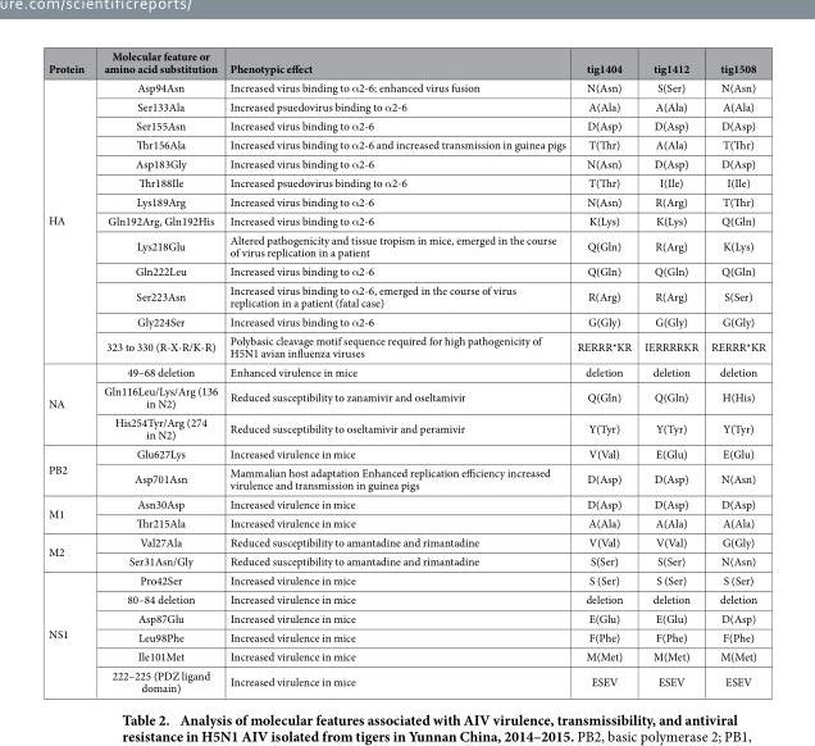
<table><thead><tr><td>Protein</td><td>Molecular feature or amino acid substitution</td><td>Phenotypic effect</td><td>tig1404</td><td>tig1412</td><td>tig1508</td></tr></thead><tbody><tr><td rowspan="13">HA</td><td>Asp94Asn</td><td>Increased virus binding to α 2-6; enhanced virus fusion</td><td>N(Asn)</td><td>S(Ser)</td><td>N(Asn)</td></tr><tr><td>Ser133Ala</td><td>Increased psuedovirus binding to α 2-6</td><td>A(Ala)</td><td>A(Ala)</td><td>A(Ala)</td></tr><tr><td>Ser155Asn</td><td>Increased virus binding to α 2-6</td><td>D(Asp)</td><td>D(Asp)</td><td>D(Asp)</td></tr><tr><td>Thr156Ala</td><td>Increased virus binding to α 2-6 and increased transmission in guinea pigs</td><td>T(Thr)</td><td>A(Ala)</td><td>T(Thr)</td></tr><tr><td>Asp183Gly</td><td>Increased virus binding to α 2-6</td><td>N(Asn)</td><td>D(Asp)</td><td>D(Asp)</td></tr><tr><td>Thr188Ile</td><td>Increased psuedovirus binding to α 2-6</td><td>T(Thr)</td><td>I(Ile)</td><td>I(Ile)</td></tr><tr><td>Lys189Arg</td><td>Increased virus binding to α 2-6</td><td>N(Asn)</td><td>R(Arg)</td><td>T(Thr)</td></tr><tr><td>Gln192Arg, Gln192His</td><td>Increased virus binding to α 2-6</td><td>K(Lys)</td><td>K(Lys)</td><td>Q(Gln)</td></tr><tr><td>Lys218Glu</td><td>Altered pathogenicity and tissue tropism in mice, emerged in the course of virus replication in a patient</td><td>Q(Gln)</td><td>R(Arg)</td><td>K(Lys)</td></tr><tr><td>Gln222Leu</td><td>Increased virus binding to α 2-6</td><td>Q(Gln)</td><td>Q(Gln)</td><td>Q(Gln)</td></tr><tr><td>Ser223Asn</td><td>Increased virus binding to α 2-6, emerged in the course of virus replication in a patient (fatal case)</td><td>R(Arg)</td><td>R(Arg)</td><td>S(Ser)</td></tr><tr><td>Gly224Ser</td><td>Increased virus binding to α 2-6</td><td>G(Gly)</td><td>G(Gly)</td><td>G(Gly)</td></tr><tr><td>323 to 330 (R-X-R/K-R)</td><td>Polybasic cleavage motif sequence required for high pathogenicity of H5N1 avian influenza viruses</td><td>RERRR*KR</td><td>IERRRRKR</td><td>RERRR*KR</td></tr><tr><td rowspan="3">NA</td><td>49–68 deletion</td><td>Enhanced virulence in mice</td><td>deletion</td><td>deletion</td><td>deletion</td></tr><tr><td>Gln116Leu/Lys/Arg (136 in N2)</td><td>Reduced susceptibility to zanamivir and oseltamivir</td><td>Q(Gln)</td><td>Q(Gln)</td><td>H(His)</td></tr><tr><td>His254Tyr/Arg (274 in N2)</td><td>Reduced susceptibility to oseltamivir and peramivir</td><td>Y(Tyr)</td><td>Y(Tyr)</td><td>Y(Tyr)</td></tr><tr><td rowspan="2">PB2</td><td>Glu627Lys</td><td>Increased virulence in mice</td><td>V(Val)</td><td>E(Glu)</td><td>E(Glu)</td></tr><tr><td>Asp701Asn</td><td>Mammalian host adaptation Enhanced replication efficiency increased virulence and transmission in guinea pigs</td><td>D(Asp)</td><td>D(Asp)</td><td>N(Asn)</td></tr><tr><td rowspan="2">M1</td><td>Asn30Asp</td><td>Increased virulence in mice</td><td>D(Asp)</td><td>D(Asp)</td><td>D(Asp)</td></tr><tr><td>Thr215Ala</td><td>Increased virulence in mice</td><td>A(Ala)</td><td>A(Ala)</td><td>A(Ala)</td></tr><tr><td rowspan="2">M2</td><td>Val27Ala</td><td>Reduced susceptibility to amantadine and rimantadine</td><td>V(Val)</td><td>V(Val)</td><td>G(Gly)</td></tr><tr><td>Ser31Asn/Gly</td><td>Reduced susceptibility to amantadine and rimantadine</td><td>S(Ser)</td><td>S(Ser)</td><td>N(Asn)</td></tr><tr><td rowspan="6">NS1</td><td>Pro42Ser</td><td>Increased virulence in mice</td><td>S (Ser)</td><td>S (Ser)</td><td>S (Ser)</td></tr><tr><td>80–84 deletion</td><td>Increased virulence in mice</td><td>deletion</td><td>deletion</td><td>deletion</td></tr><tr><td>Asp87Glu</td><td>Increased virulence in mice</td><td>E(Glu)</td><td>E(Glu)</td><td>D(Asp)</td></tr><tr><td>Leu98Phe</td><td>Increased virulence in mice</td><td>F(Phe)</td><td>F(Phe)</td><td>F(Phe)</td></tr><tr><td>Ile101Met</td><td>Increased virulence in mice</td><td>M(Met)</td><td>M(Met)</td><td>M(Met)</td></tr><tr><td>222–225 (PDZ ligand domain)</td><td>Increased virulence in mice</td><td>ESEV</td><td>ESEV</td><td>ESEV</td></tr></tbody></table>